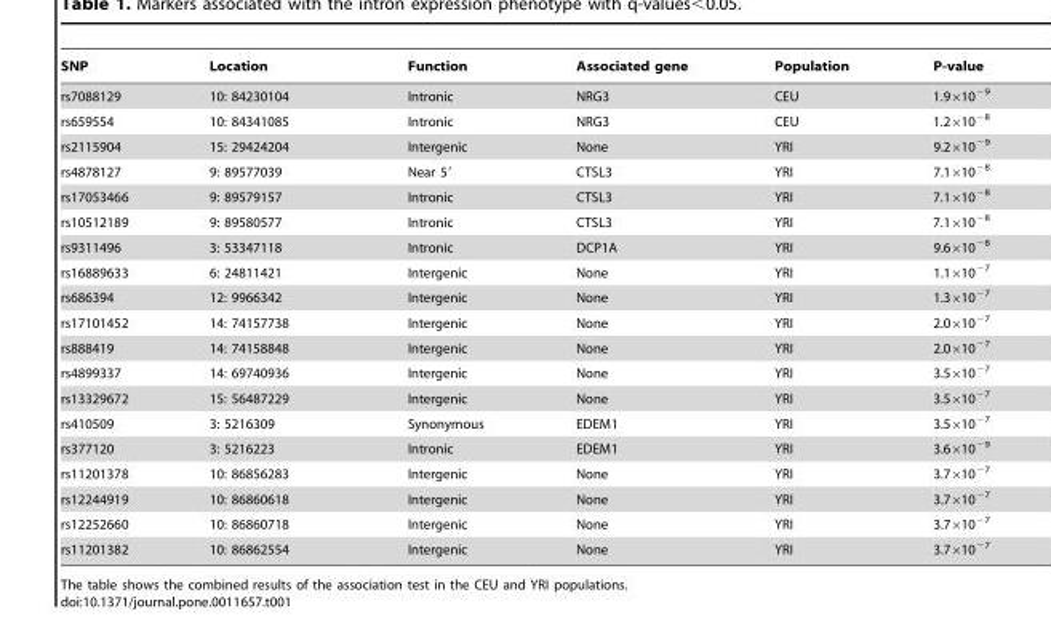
<table><thead><tr><td>SNP</td><td>Location</td><td>Function</td><td>Associated gene</td><td>Population</td><td>P-value</td></tr></thead><tbody><tr><td>rs7088129</td><td>10: 84230104</td><td>Intronic</td><td>NRG3</td><td>CEU</td><td>1.9×10<sup>−9</sup></td></tr><tr><td>rs659554</td><td>10: 84341085</td><td>Intronic</td><td>NRG3</td><td>CEU</td><td>1.2×10<sup>−8</sup></td></tr><tr><td>rs2115904</td><td>15: 29424204</td><td>Intergenic</td><td>None</td><td>YRI</td><td>9.2×10<sup>−9</sup></td></tr><tr><td>rs4878127</td><td>9: 89577039</td><td>Near 5′</td><td>CTSL3</td><td>YRI</td><td>7.1×10<sup>−8</sup></td></tr><tr><td>rs17053466</td><td>9: 89579157</td><td>Intronic</td><td>CTSL3</td><td>YRI</td><td>7.1×10<sup>−8</sup></td></tr><tr><td>rs10512189</td><td>9: 89580577</td><td>Intronic</td><td>CTSL3</td><td>YRI</td><td>7.1×10<sup>−8</sup></td></tr><tr><td>rs9311496</td><td>3: 53347118</td><td>Intronic</td><td>DCP1A</td><td>YRI</td><td>9.6×10<sup>−8</sup></td></tr><tr><td>rs16889633</td><td>6: 24811421</td><td>Intergenic</td><td>None</td><td>YRI</td><td>1.1×10<sup>−7</sup></td></tr><tr><td>rs686394</td><td>12: 9966342</td><td>Intergenic</td><td>None</td><td>YRI</td><td>1.3×10<sup>−7</sup></td></tr><tr><td>rs17101452</td><td>14: 74157738</td><td>Intergenic</td><td>None</td><td>YRI</td><td>2.0×10<sup>−7</sup></td></tr><tr><td>rs888419</td><td>14: 74158848</td><td>Intergenic</td><td>None</td><td>YRI</td><td>2.0×10<sup>−7</sup></td></tr><tr><td>rs4899337</td><td>14: 69740936</td><td>Intergenic</td><td>None</td><td>YRI</td><td>3.5×10<sup>−7</sup></td></tr><tr><td>rs13329672</td><td>15: 56487229</td><td>Intergenic</td><td>None</td><td>YRI</td><td>3.5×10<sup>−7</sup></td></tr><tr><td>rs410509</td><td>3: 5216309</td><td>Synonymous</td><td>EDEM1</td><td>YRI</td><td>3.5×10<sup>−7</sup></td></tr><tr><td>rs377120</td><td>3: 5216223</td><td>Intronic</td><td>EDEM1</td><td>YRI</td><td>3.6×10<sup>−9</sup></td></tr><tr><td>rs11201378</td><td>10: 86856283</td><td>Intergenic</td><td>None</td><td>YRI</td><td>3.7×10<sup>−7</sup></td></tr><tr><td>rs12244919</td><td>10: 86860618</td><td>Intergenic</td><td>None</td><td>YRI</td><td>3.7×10<sup>−7</sup></td></tr><tr><td>rs12252660</td><td>10: 86860718</td><td>Intergenic</td><td>None</td><td>YRI</td><td>3.7×10<sup>−7</sup></td></tr><tr><td>rs11201382</td><td>10: 86862554</td><td>Intergenic</td><td>None</td><td>YRI</td><td>3.7×10<sup>−7</sup></td></tr></tbody></table>